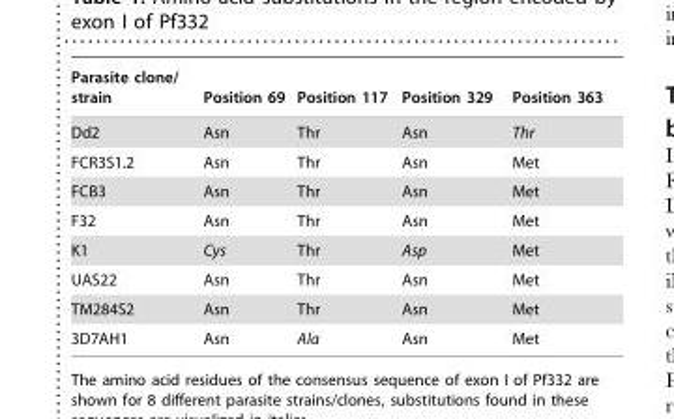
<table><thead><tr><td>Parasite clone/ strain</td><td>Position 69</td><td>Position 117</td><td>Position 329</td><td>Position 363</td></tr></thead><tbody><tr><td>Dd2</td><td>Asn</td><td>Thr</td><td>Asn</td><td>Thr</td></tr><tr><td>FCR3S1.2</td><td>Asn</td><td>Thr</td><td>Asn</td><td>Met</td></tr><tr><td>FCB3</td><td>Asn</td><td>Thr</td><td>Asn</td><td>Met</td></tr><tr><td>F32</td><td>Asn</td><td>Thr</td><td>Asn</td><td>Met</td></tr><tr><td>K1</td><td>Cys</td><td>Thr</td><td>Asp</td><td>Met</td></tr><tr><td>UAS22</td><td>Asn</td><td>Thr</td><td>Asn</td><td>Met</td></tr><tr><td>TM284S2</td><td>Asn</td><td>Thr</td><td>Asn</td><td>Met</td></tr><tr><td>3D7AH1</td><td>Asn</td><td>Ala</td><td>Asn</td><td>Met</td></tr></tbody></table>